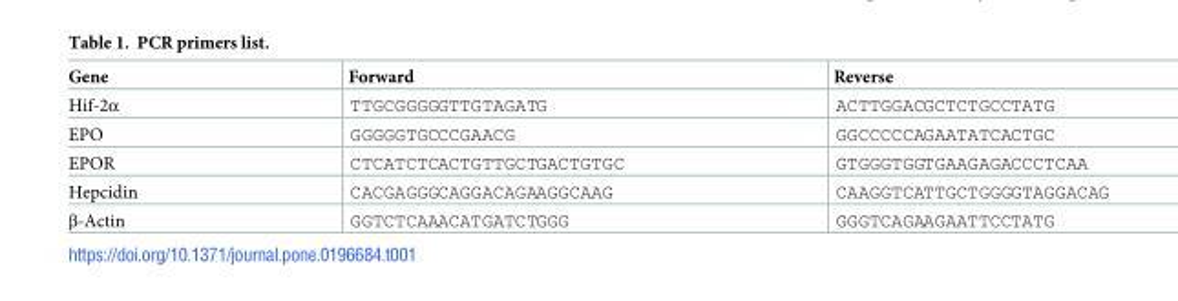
<table><thead><tr><td>Gene</td><td>Forward</td><td>Reverse</td></tr></thead><tbody><tr><td>Hif-2α</td><td>TTGCGGGGGTTGTAGATG</td><td>ACTTGGACGCTCTGCCTATG</td></tr><tr><td>EPO</td><td>GGGGGTGCCCGAACG</td><td>GGCCCCCAGAATATCACTGC</td></tr><tr><td>EPOR</td><td>CTCATCTCACTGTTGCTGACTGTGC</td><td>GTGGGTGGTGAAGAGACCCTCAA</td></tr><tr><td>Hepcidin</td><td>CACGAGGGCAGGACAGAAGGCAAG</td><td>CAAGGTCATTGCTGGGGTAGGACAG</td></tr><tr><td>β-Actin</td><td>GGTCTCAAACATGATCTGGG</td><td>GGGTCAGAAGAATTCCTATG</td></tr></tbody></table>